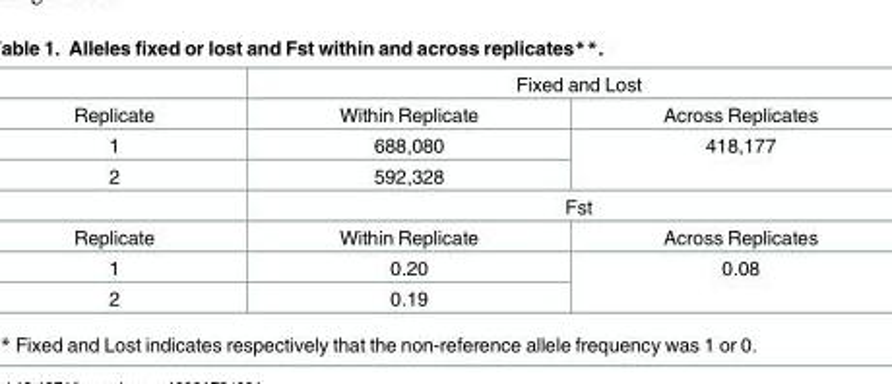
<table><thead><tr><td rowspan="2">Replicate</td><td colspan="2">Fixed and Lost</td></tr><tr><td>Within Replicate</td><td>Across Replicates</td></tr></thead><tbody><tr><td>1</td><td>688,080</td><td rowspan="2">418,177</td></tr><tr><td rowspan="2">2</td><td>592,328</td></tr><tr><td colspan="2">Fst</td></tr><tr><td>Replicate</td><td>Within Replicate</td><td>Across Replicates</td></tr><tr><td>1</td><td>0.20</td><td rowspan="2">0.08</td></tr><tr><td>2</td><td>0.19</td></tr></tbody></table>